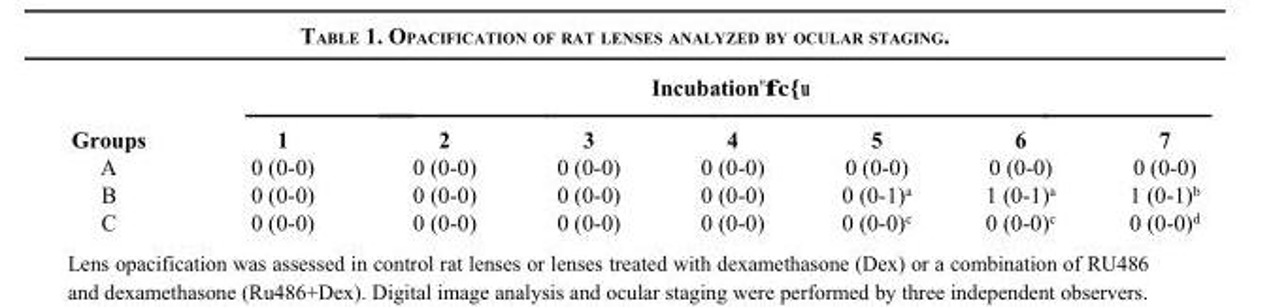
<table><thead><tr><td rowspan="2">Groups</td><td colspan="7">Incubation�����</td></tr><tr><td>1</td><td>2</td><td>3</td><td>4</td><td>5</td><td>6</td><td>7</td></tr></thead><tbody><tr><td>A</td><td>0 (0-0)</td><td>0 (0-0)</td><td>0 (0-0)</td><td>0 (0-0)</td><td>0 (0-0)</td><td>0 (0-0)</td><td>0 (0-0)</td></tr><tr><td>B</td><td>0 (0-0)</td><td>0 (0-0)</td><td>0 (0-0)</td><td>0 (0-0)</td><td>0 (0-1)<sup>a</sup></td><td>1 (0-1)<sup>a</sup></td><td>1 (0-1)<sup>b</sup></td></tr><tr><td>C</td><td>0 (0-0)</td><td>0 (0-0)</td><td>0 (0-0)</td><td>0 (0-0)</td><td>0 (0-0)<sup>c</sup></td><td>0 (0-0)<sup>c</sup></td><td>0 (0-0)<sup>d</sup></td></tr></tbody></table>